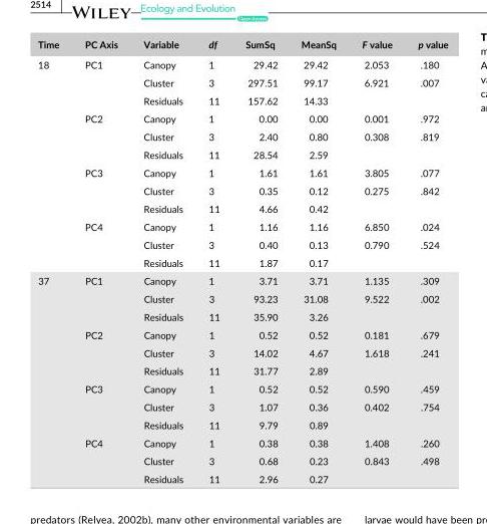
<table><thead><tr><td>Time</td><td>PC Axis</td><td>Variable</td><td>df</td><td>SumSq</td><td>MeanSq</td><td>F value</td><td>p value</td></tr></thead><tbody><tr><td rowspan="12">18</td><td rowspan="3">PC1</td><td>Canopy</td><td>1</td><td>29.42</td><td>29.42</td><td>2.053</td><td>.180</td></tr><tr><td>Cluster</td><td>3</td><td>297.51</td><td>99.17</td><td>6.921</td><td>.007</td></tr><tr><td>Residuals</td><td>11</td><td>157.62</td><td>14.33</td><td></td><td></td></tr><tr><td rowspan="3">PC2</td><td>Canopy</td><td>1</td><td>0.00</td><td>0.00</td><td>0.001</td><td>.972</td></tr><tr><td>Cluster</td><td>3</td><td>2.40</td><td>0.80</td><td>0.308</td><td>.819</td></tr><tr><td>Residuals</td><td>11</td><td>28.54</td><td>2.59</td><td></td><td></td></tr><tr><td rowspan="3">PC3</td><td>Canopy</td><td>1</td><td>1.61</td><td>1.61</td><td>3.805</td><td>.077</td></tr><tr><td>Cluster</td><td>3</td><td>0.35</td><td>0.12</td><td>0.275</td><td>.842</td></tr><tr><td>Residuals</td><td>11</td><td>4.66</td><td>0.42</td><td></td><td></td></tr><tr><td rowspan="3">PC4</td><td>Canopy</td><td>1</td><td>1.16</td><td>1.16</td><td>6.850</td><td>.024</td></tr><tr><td>Cluster</td><td>3</td><td>0.40</td><td>0.13</td><td>0.790</td><td>.524</td></tr><tr><td>Residuals</td><td>11</td><td>1.87</td><td>0.17</td><td></td><td></td></tr><tr><td rowspan="12">37</td><td rowspan="3">PC1</td><td>Canopy</td><td>1</td><td>3.71</td><td>3.71</td><td>1.135</td><td>.309</td></tr><tr><td>Cluster</td><td>3</td><td>93.23</td><td>31.08</td><td>9.522</td><td>.002</td></tr><tr><td>Residuals</td><td>11</td><td>35.90</td><td>3.26</td><td></td><td></td></tr><tr><td rowspan="3">PC2</td><td>Canopy</td><td>1</td><td>0.52</td><td>0.52</td><td>0.181</td><td>.679</td></tr><tr><td>Cluster</td><td>3</td><td>14.02</td><td>4.67</td><td>1.618</td><td>.241</td></tr><tr><td>Residuals</td><td>11</td><td>31.77</td><td>2.89</td><td></td><td></td></tr><tr><td rowspan="3">PC3</td><td>Canopy</td><td>1</td><td>0.52</td><td>0.52</td><td>0.590</td><td>.459</td></tr><tr><td>Cluster</td><td>3</td><td>1.07</td><td>0.36</td><td>0.402</td><td>.754</td></tr><tr><td>Residuals</td><td>11</td><td>9.79</td><td>0.89</td><td></td><td></td></tr><tr><td rowspan="3">PC4</td><td>Canopy</td><td>1</td><td>0.38</td><td>0.38</td><td>1.408</td><td>.260</td></tr><tr><td>Cluster</td><td>3</td><td>0.68</td><td>0.23</td><td>0.843</td><td>.498</td></tr><tr><td>Residuals</td><td>11</td><td>2.96</td><td>0.27</td><td></td><td></td></tr></tbody></table>